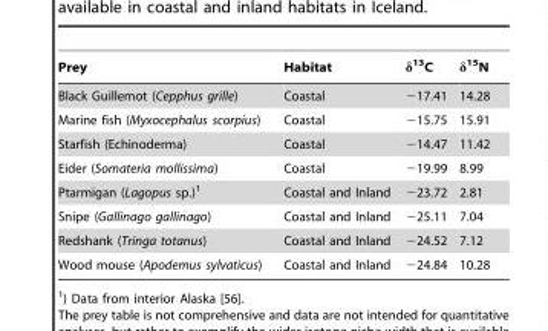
<table><thead><tr><td>Prey</td><td>Habitat</td><td>δ<sup>13</sup>C</td><td>δ<sup>15</sup>N</td></tr></thead><tbody><tr><td>Black Guillemot (Cepphus grille)</td><td>Coastal</td><td>−17.41</td><td>14.28</td></tr><tr><td>Marine fish (Myxocephalus scorpius)</td><td>Coastal</td><td>−15.75</td><td>15.91</td></tr><tr><td>Starfish (Echinoderma)</td><td>Coastal</td><td>−14.47</td><td>11.42</td></tr><tr><td>Eider (Somateria mollissima)</td><td>Coastal</td><td>−19.99</td><td>8.99</td></tr><tr><td>Ptarmigan (Lagopus sp.)<sup>1</sup></td><td>Coastal and Inland</td><td>−23.72</td><td>2.81</td></tr><tr><td>Snipe (Gallinago gallinago)</td><td>Coastal and Inland</td><td>−25.11</td><td>7.04</td></tr><tr><td>Redshank (Tringa totanus)</td><td>Coastal and Inland</td><td>−24.52</td><td>7.12</td></tr><tr><td>Wood mouse (Apodemus sylvaticus)</td><td>Coastal and Inland</td><td>−24.84</td><td>10.28</td></tr></tbody></table>